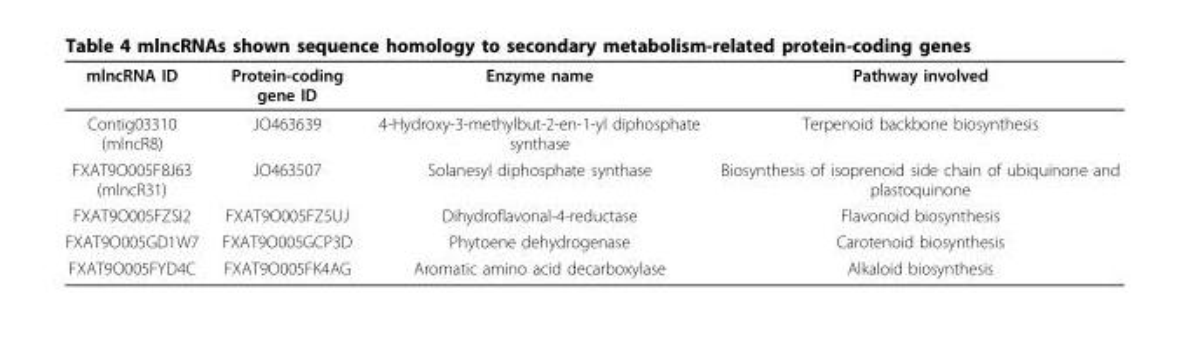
<table><thead><tr><td>mlncRNA ID</td><td>Protein-coding gene ID</td><td>Enzyme name</td><td>Pathway involved</td></tr></thead><tbody><tr><td>Contig03310 (mlncR8)</td><td>JO463639</td><td>4-Hydroxy-3-methylbut-2-en-1-yl diphosphate synthase</td><td>Terpenoid backbone biosynthesis</td></tr><tr><td>FXAT9O005F8J63 (mlncR31)</td><td>JO463507</td><td>Solanesyl diphosphate synthase</td><td>Biosynthesis of isoprenoid side chain of ubiquinone and plastoquinone</td></tr><tr><td>FXAT9O005FZSI2</td><td>FXAT9O005FZ5UJ</td><td>Dihydroflavonal-4-reductase</td><td>Flavonoid biosynthesis</td></tr><tr><td>FXAT9O005GD1W7</td><td>FXAT9O005GCP3D</td><td>Phytoene dehydrogenase</td><td>Carotenoid biosynthesis</td></tr><tr><td>FXAT9O005FYD4C</td><td>FXAT9O005FK4AG</td><td>Aromatic amino acid decarboxylase</td><td>Alkaloid biosynthesis</td></tr></tbody></table>